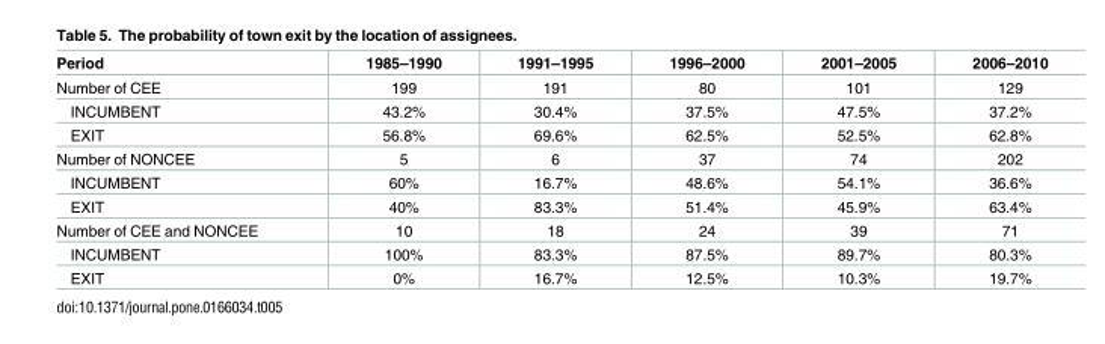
<table><thead><tr><td>Period</td><td>1985–1990</td><td>1991–1995</td><td>1996–2000</td><td>2001–2005</td><td>2006–2010</td></tr></thead><tbody><tr><td>Number of CEE</td><td>199</td><td>191</td><td>80</td><td>101</td><td>129</td></tr><tr><td>INCUMBENT</td><td>43.2%</td><td>30.4%</td><td>37.5%</td><td>47.5%</td><td>37.2%</td></tr><tr><td>EXIT</td><td>56.8%</td><td>69.6%</td><td>62.5%</td><td>52.5%</td><td>62.8%</td></tr><tr><td>Number of NONCEE</td><td>5</td><td>6</td><td>37</td><td>74</td><td>202</td></tr><tr><td>INCUMBENT</td><td>60%</td><td>16.7%</td><td>48.6%</td><td>54.1%</td><td>36.6%</td></tr><tr><td>EXIT</td><td>40%</td><td>83.3%</td><td>51.4%</td><td>45.9%</td><td>63.4%</td></tr><tr><td>Number of CEE and NONCEE</td><td>10</td><td>18</td><td>24</td><td>39</td><td>71</td></tr><tr><td>INCUMBENT</td><td>100%</td><td>83.3%</td><td>87.5%</td><td>89.7%</td><td>80.3%</td></tr><tr><td>EXIT</td><td>0%</td><td>16.7%</td><td>12.5%</td><td>10.3%</td><td>19.7%</td></tr></tbody></table>